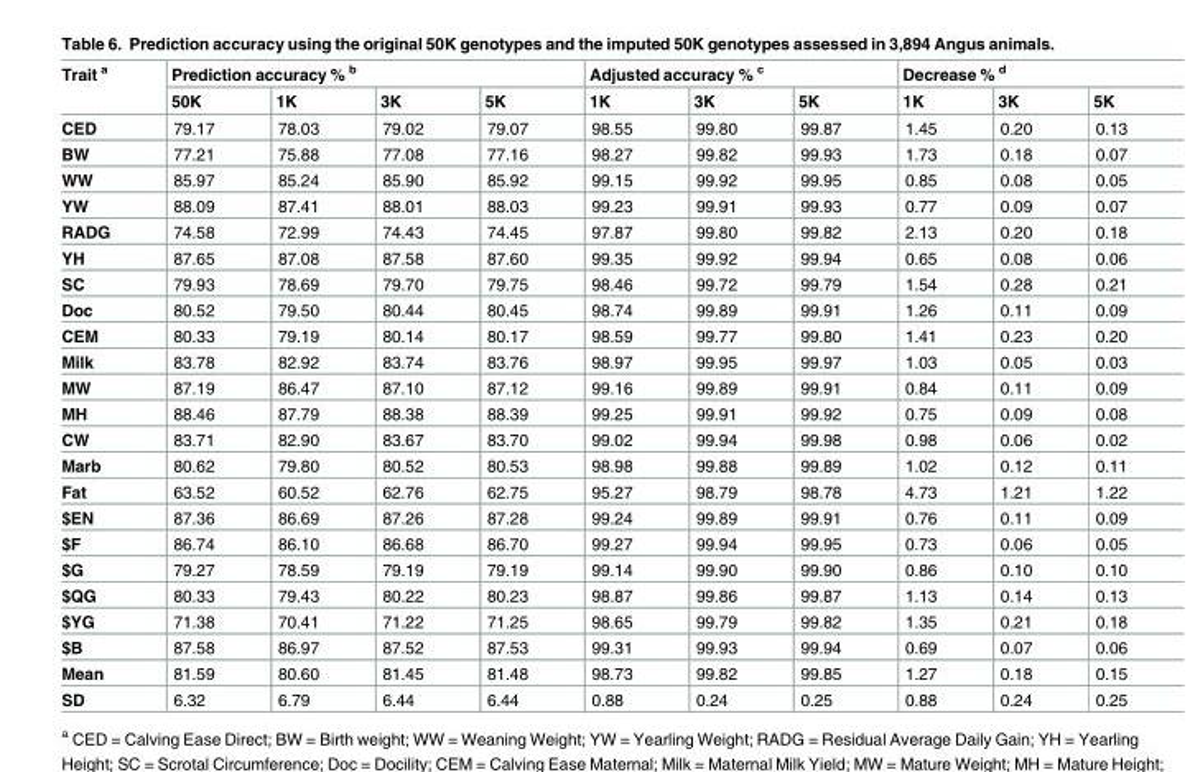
<table><thead><tr><td rowspan="2">Trait <sup>a</sup></td><td colspan="4">Prediction accuracy % <sup>b</sup></td><td colspan="3">Adjusted accuracy % <sup>c</sup></td><td colspan="3">Decrease % <sup>d</sup></td></tr><tr><td>50K</td><td>1K</td><td>3K</td><td>5K</td><td>1K</td><td>3K</td><td>5K</td><td>1K</td><td>3K</td><td>5K</td></tr></thead><tbody><tr><td>CED</td><td>79.17</td><td>78.03</td><td>79.02</td><td>79.07</td><td>98.55</td><td>99.80</td><td>99.87</td><td>1.45</td><td>0.20</td><td>0.13</td></tr><tr><td>BW</td><td>77.21</td><td>75.88</td><td>77.08</td><td>77.16</td><td>98.27</td><td>99.82</td><td>99.93</td><td>1.73</td><td>0.18</td><td>0.07</td></tr><tr><td>WW</td><td>85.97</td><td>85.24</td><td>85.90</td><td>85.92</td><td>99.15</td><td>99.92</td><td>99.95</td><td>0.85</td><td>0.08</td><td>0.05</td></tr><tr><td>YW</td><td>88.09</td><td>87.41</td><td>88.01</td><td>88.03</td><td>99.23</td><td>99.91</td><td>99.93</td><td>0.77</td><td>0.09</td><td>0.07</td></tr><tr><td>RADG</td><td>74.58</td><td>72.99</td><td>74.43</td><td>74.45</td><td>97.87</td><td>99.80</td><td>99.82</td><td>2.13</td><td>0.20</td><td>0.18</td></tr><tr><td>YH</td><td>87.65</td><td>87.08</td><td>87.58</td><td>87.60</td><td>99.35</td><td>99.92</td><td>99.94</td><td>0.65</td><td>0.08</td><td>0.06</td></tr><tr><td>SC</td><td>79.93</td><td>78.69</td><td>79.70</td><td>79.75</td><td>98.46</td><td>99.72</td><td>99.79</td><td>1.54</td><td>0.28</td><td>0.21</td></tr><tr><td>Doc</td><td>80.52</td><td>79.50</td><td>80.44</td><td>80.45</td><td>98.74</td><td>99.89</td><td>99.91</td><td>1.26</td><td>0.11</td><td>0.09</td></tr><tr><td>CEM</td><td>80.33</td><td>79.19</td><td>80.14</td><td>80.17</td><td>98.59</td><td>99.77</td><td>99.80</td><td>1.41</td><td>0.23</td><td>0.20</td></tr><tr><td>Milk</td><td>83.78</td><td>82.92</td><td>83.74</td><td>83.76</td><td>98.97</td><td>99.95</td><td>99.97</td><td>1.03</td><td>0.05</td><td>0.03</td></tr><tr><td>MW</td><td>87.19</td><td>86.47</td><td>87.10</td><td>87.12</td><td>99.16</td><td>99.89</td><td>99.91</td><td>0.84</td><td>0.11</td><td>0.09</td></tr><tr><td>MH</td><td>88.46</td><td>87.79</td><td>88.38</td><td>88.39</td><td>99.25</td><td>99.91</td><td>99.92</td><td>0.75</td><td>0.09</td><td>0.08</td></tr><tr><td>CW</td><td>83.71</td><td>82.90</td><td>83.67</td><td>83.70</td><td>99.02</td><td>99.94</td><td>99.98</td><td>0.98</td><td>0.06</td><td>0.02</td></tr><tr><td>Marb</td><td>80.62</td><td>79.80</td><td>80.52</td><td>80.53</td><td>98.98</td><td>99.88</td><td>99.89</td><td>1.02</td><td>0.12</td><td>0.11</td></tr><tr><td>Fat</td><td>63.52</td><td>60.52</td><td>62.76</td><td>62.75</td><td>95.27</td><td>98.79</td><td>98.78</td><td>4.73</td><td>1.21</td><td>1.22</td></tr><tr><td>$EN</td><td>87.36</td><td>86.69</td><td>87.26</td><td>87.28</td><td>99.24</td><td>99.89</td><td>99.91</td><td>0.76</td><td>0.11</td><td>0.09</td></tr><tr><td>$F</td><td>86.74</td><td>86.10</td><td>86.68</td><td>86.70</td><td>99.27</td><td>99.94</td><td>99.95</td><td>0.73</td><td>0.06</td><td>0.05</td></tr><tr><td>$G</td><td>79.27</td><td>78.59</td><td>79.19</td><td>79.19</td><td>99.14</td><td>99.90</td><td>99.90</td><td>0.86</td><td>0.10</td><td>0.10</td></tr><tr><td>$QG</td><td>80.33</td><td>79.43</td><td>80.22</td><td>80.23</td><td>98.87</td><td>99.86</td><td>99.87</td><td>1.13</td><td>0.14</td><td>0.13</td></tr><tr><td>$YG</td><td>71.38</td><td>70.41</td><td>71.22</td><td>71.25</td><td>98.65</td><td>99.79</td><td>99.82</td><td>1.35</td><td>0.21</td><td>0.18</td></tr><tr><td>$B</td><td>87.58</td><td>86.97</td><td>87.52</td><td>87.53</td><td>99.31</td><td>99.93</td><td>99.94</td><td>0.69</td><td>0.07</td><td>0.06</td></tr><tr><td>Mean</td><td>81.59</td><td>80.60</td><td>81.45</td><td>81.48</td><td>98.73</td><td>99.82</td><td>99.85</td><td>1.27</td><td>0.18</td><td>0.15</td></tr><tr><td>SD</td><td>6.32</td><td>6.79</td><td>6.44</td><td>6.44</td><td>0.88</td><td>0.24</td><td>0.25</td><td>0.88</td><td>0.24</td><td>0.25</td></tr></tbody></table>